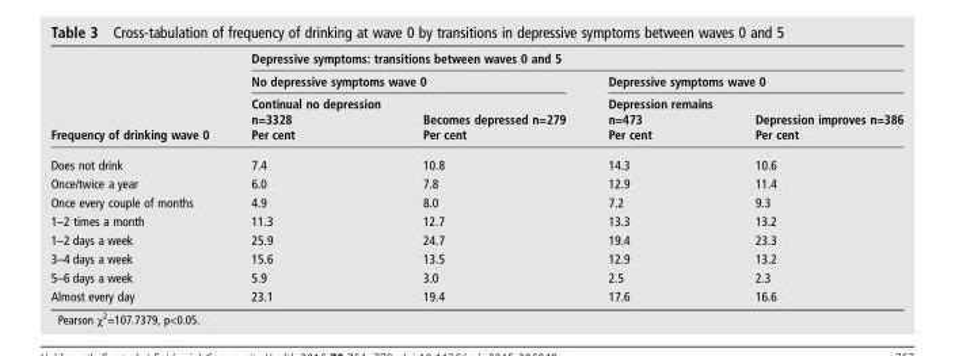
<table><thead><tr><td rowspan="3">Frequency of drinking wave 0</td><td colspan="4">Depressive symptoms: transitions between waves 0 and 5</td></tr><tr><td colspan="2">No depressive symptoms wave 0</td><td colspan="2">Depressive symptoms wave 0</td></tr><tr><td>Continual no depression n=3328 Per cent</td><td>Becomes depressed n=279 Per cent</td><td>Depression remains n=473 Per cent</td><td>Depression improves n=386 Per cent</td></tr></thead><tbody><tr><td>Does not drink</td><td>7.4</td><td>10.8</td><td>14.3</td><td>10.6</td></tr><tr><td>Once/twice a year</td><td>6.0</td><td>7.8</td><td>12.9</td><td>11.4</td></tr><tr><td>Once every couple of months</td><td>4.9</td><td>8.0</td><td>7.2</td><td>9.3</td></tr><tr><td>1–2 times a month</td><td>11.3</td><td>12.7</td><td>13.3</td><td>13.2</td></tr><tr><td>1–2 days a week</td><td>25.9</td><td>24.7</td><td>19.4</td><td>23.3</td></tr><tr><td>3–4 days a week</td><td>15.6</td><td>13.5</td><td>12.9</td><td>13.2</td></tr><tr><td>5–6 days a week</td><td>5.9</td><td>3.0</td><td>2.5</td><td>2.3</td></tr><tr><td>Almost every day</td><td>23.1</td><td>19.4</td><td>17.6</td><td>16.6</td></tr></tbody></table>